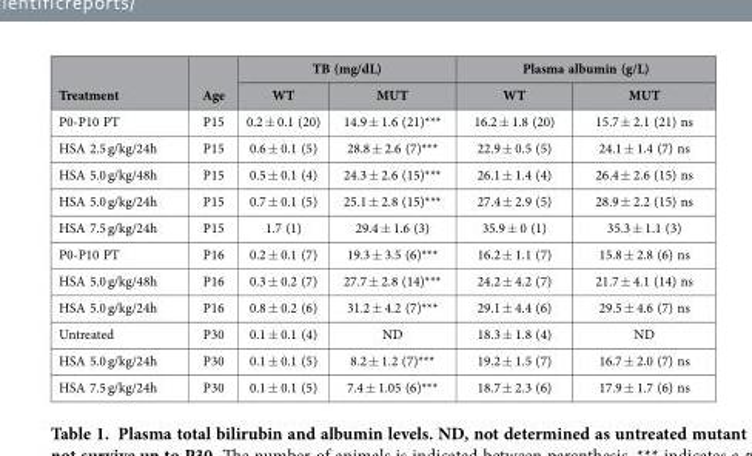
<table><thead><tr><td rowspan="2">Treatment</td><td rowspan="2">Age</td><td colspan="2">TB (mg/dL)</td><td colspan="2">Plasma albumin (g/L)</td></tr><tr><td>WT</td><td>MUT</td><td>WT</td><td>MUT</td></tr></thead><tbody><tr><td>P0-P10 PT</td><td>P15</td><td>0.2 ± 0.1 (20)</td><td>14.9 ± 1.6 (21)***</td><td>16.2 ± 1.8 (20)</td><td>15.7 ± 2.1 (21) ns</td></tr><tr><td>HSA 2.5 g/kg/24h</td><td>P15</td><td>0.6 ± 0.1 (5)</td><td>28.8 ± 2.6 (7)***</td><td>22.9 ± 0.5 (5)</td><td>24.1 ± 1.4 (7) ns</td></tr><tr><td>HSA 5.0 g/kg/48h</td><td>P15</td><td>0.5 ± 0.1 (4)</td><td>24.3 ± 2.6 (15)***</td><td>26.1 ± 1.4 (4)</td><td>26.4 ± 2.6 (15) ns</td></tr><tr><td>HSA 5.0 g/kg/24h</td><td>P15</td><td>0.7 ± 0.1 (5)</td><td>25.1 ± 2.8 (15)***</td><td>27.4 ± 2.9 (5)</td><td>28.9 ± 2.2 (15) ns</td></tr><tr><td>HSA 7.5 g/kg/24h</td><td>P15</td><td>1.7 (1)</td><td>29.4 ± 1.6 (3)</td><td>35.9 ± 0 (1)</td><td>35.3 ± 1.1 (3)</td></tr><tr><td>P0-P10 PT</td><td>P16</td><td>0.2 ± 0.1 (7)</td><td>19.3 ± 3.5 (6)***</td><td>16.2 ± 1.1 (7)</td><td>15.8 ± 2.8 (6) ns</td></tr><tr><td>HSA 5.0 g/kg/48h</td><td>P16</td><td>0.3 ± 0.2 (7)</td><td>27.7 ± 2.8 (14)***</td><td>24.2 ± 4.2 (7)</td><td>21.7 ± 4.1 (14) ns</td></tr><tr><td>HSA 5.0 g/kg/24h</td><td>P16</td><td>0.8 ± 0.2 (6)</td><td>31.2 ± 4.2 (7)***</td><td>29.1 ± 4.4 (6)</td><td>29.5 ± 4.6 (7) ns</td></tr><tr><td>Untreated</td><td>P30</td><td>0.1 ± 0.1 (4)</td><td>ND</td><td>18.3 ± 1.8 (4)</td><td>ND</td></tr><tr><td>HSA 5.0 g/kg/24h</td><td>P30</td><td>0.1 ± 0.1 (5)</td><td>8.2 ± 1.2 (7)***</td><td>19.2 ± 1.5 (7)</td><td>16.7 ± 2.0 (7) ns</td></tr><tr><td>HSA 7.5 g/kg/24h</td><td>P30</td><td>0.1 ± 0.1 (5)</td><td>7.4 ± 1.05 (6)***</td><td>18.7 ± 2.3 (6)</td><td>17.9 ± 1.7 (6) ns</td></tr></tbody></table>